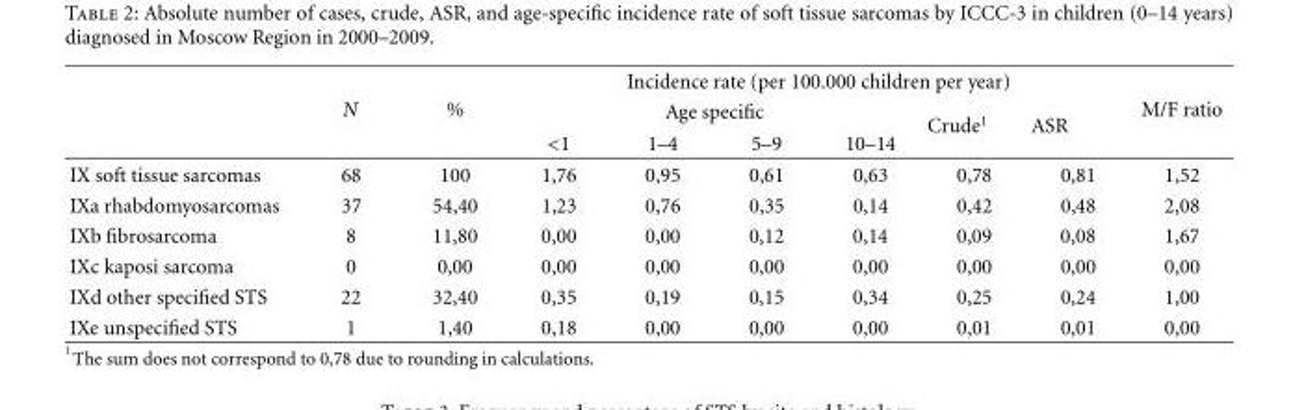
<table><thead><tr><td rowspan="3"></td><td rowspan="3">N</td><td rowspan="3">%</td><td colspan="6">Incidence rate (per 100.000 children per year)</td><td rowspan="3">M/F ratio</td></tr><tr><td colspan="4">Age specific</td><td rowspan="2">Crude<sup>1</sup></td><td rowspan="2">ASR</td></tr><tr><td>&lt;1</td><td>1–4</td><td>5–9</td><td>10–14</td></tr></thead><tbody><tr><td>IX soft tissue sarcomas</td><td>68</td><td>100</td><td>1,76</td><td>0,95</td><td>0,61</td><td>0,63</td><td>0,78</td><td>0,81</td><td>1,52</td></tr><tr><td>IXa rhabdomyosarcomas</td><td>37</td><td>54,40</td><td>1,23</td><td>0,76</td><td>0,35</td><td>0,14</td><td>0,42</td><td>0,48</td><td>2,08</td></tr><tr><td>IXb fibrosarcoma</td><td>8</td><td>11,80</td><td>0,00</td><td>0,00</td><td>0,12</td><td>0,14</td><td>0,09</td><td>0,08</td><td>1,67</td></tr><tr><td>IXc kaposi sarcoma</td><td>0</td><td>0,00</td><td>0,00</td><td>0,00</td><td>0,00</td><td>0,00</td><td>0,00</td><td>0,00</td><td>0,00</td></tr><tr><td>IXd other specified STS</td><td>22</td><td>32,40</td><td>0,35</td><td>0,19</td><td>0,15</td><td>0,34</td><td>0,25</td><td>0,24</td><td>1,00</td></tr><tr><td>IXe unspecified STS</td><td>1</td><td>1,40</td><td>0,18</td><td>0,00</td><td>0,00</td><td>0,00</td><td>0,01</td><td>0,01</td><td>0,00</td></tr></tbody></table>